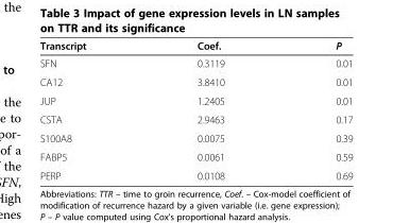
<table><thead><tr><td>Transcript</td><td>Coef.</td><td>P</td></tr></thead><tbody><tr><td>SFN</td><td>0.3119</td><td>0.01</td></tr><tr><td>CA12</td><td>3.8410</td><td>0.01</td></tr><tr><td>JUP</td><td>1.2405</td><td>0.01</td></tr><tr><td>CSTA</td><td>2.9463</td><td>0.17</td></tr><tr><td>S100A8</td><td>0.0075</td><td>0.39</td></tr><tr><td>FABP5</td><td>0.0061</td><td>0.59</td></tr><tr><td>PERP</td><td>0.0108</td><td>0.69</td></tr></tbody></table>